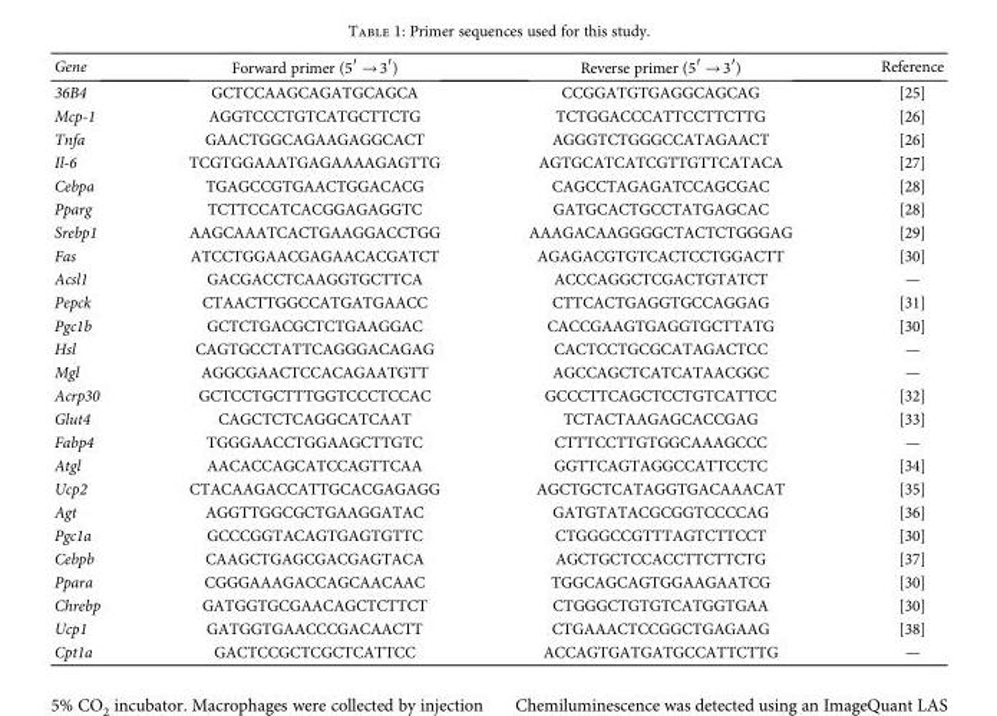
<table><thead><tr><td>Gene</td><td>Forward primer (5′ → 3′)</td><td>Reverse primer (5′ → 3′)</td><td>Reference</td></tr></thead><tbody><tr><td>36B4</td><td>GCTCCAAGCAGATGCAGCA</td><td>CCGGATGTGAGGCAGCAG</td><td>[25]</td></tr><tr><td>Mcp-1</td><td>AGGTCCCTGTCATGCTTCTG</td><td>TCTGGACCCATTCCTTCTTG</td><td>[26]</td></tr><tr><td>Tnfa</td><td>GAACTGGCAGAAGAGGCACT</td><td>AGGGTCTGGGCCATAGAACT</td><td>[26]</td></tr><tr><td>Il-6</td><td>TCGTGGAAATGAGAAAAGAGTTG</td><td>AGTGCATCATCGTTGTTCATACA</td><td>[27]</td></tr><tr><td>Cebpa</td><td>TGAGCCGTGAACTGGACACG</td><td>CAGCCTAGAGATCCAGCGAC</td><td>[28]</td></tr><tr><td>Pparg</td><td>TCTTCCATCACGGAGAGGTC</td><td>GATGCACTGCCTATGAGCAC</td><td>[28]</td></tr><tr><td>Srebp1</td><td>AAGCAAATCACTGAAGGACCTGG</td><td>AAAGACAAGGGGCTACTCTGGGAG</td><td>[29]</td></tr><tr><td>Fas</td><td>ATCCTGGAACGAGAACACGATCT</td><td>AGAGACGTGTCACTCCTGGACTT</td><td>[30]</td></tr><tr><td>Acsl1</td><td>GACGACCTCAAGGTGCTTCA</td><td>ACCCAGGCTCGACTGTATCT</td><td>—</td></tr><tr><td>Pepck</td><td>CTAACTTGGCCATGATGAACC</td><td>CTTCACTGAGGTGCCAGGAG</td><td>[31]</td></tr><tr><td>Pgc1b</td><td>GCTCTGACGCTCTGAAGGAC</td><td>CACCGAAGTGAGGTGCTTATG</td><td>[30]</td></tr><tr><td>Hsl</td><td>CAGTGCCTATTCAGGGACAGAG</td><td>CACTCCTGCGCATAGACTCC</td><td>—</td></tr><tr><td>Mgl</td><td>AGGCGAACTCCACAGAATGTT</td><td>AGCCAGCTCATCATAACGGC</td><td>—</td></tr><tr><td>Acrp30</td><td>GCTCCTGCTTTGGTCCCTCCAC</td><td>GCCCTTCAGCTCCTGTCATTCC</td><td>[32]</td></tr><tr><td>Glut4</td><td>CAGCTCTCAGGCATCAAT</td><td>TCTACTAAGAGCACCGAG</td><td>[33]</td></tr><tr><td>Fabp4</td><td>TGGGAACCTGGAAGCTTGTC</td><td>CTTTCCTTGTGGCAAAGCCC</td><td>—</td></tr><tr><td>Atgl</td><td>AACACCAGCATCCAGTTCAA</td><td>GGTTCAGTAGGCCATTCCTC</td><td>[34]</td></tr><tr><td>Ucp2</td><td>CTACAAGACCATTGCACGAGAGG</td><td>AGCTGCTCATAGGTGACAAACAT</td><td>[35]</td></tr><tr><td>Agt</td><td>AGGTTGGCGCTGAAGGATAC</td><td>GATGTATACGCGGTCCCCAG</td><td>[36]</td></tr><tr><td>Pgc1a</td><td>GCCCGGTACAGTGAGTGTTC</td><td>CTGGGCCGTTTAGTCTTCCT</td><td>[30]</td></tr><tr><td>Cebpb</td><td>CAAGCTGAGCGACGAGTACA</td><td>AGCTGCTCCACCTTCTTCTG</td><td>[37]</td></tr><tr><td>Ppara</td><td>CGGGAAAGACCAGCAACAAC</td><td>TGGCAGCAGTGGAAGAATCG</td><td>[30]</td></tr><tr><td>Chrebp</td><td>GATGGTGCGAACAGCTCTTCT</td><td>CTGGGCTGTGTCATGGTGAA</td><td>[30]</td></tr><tr><td>Ucp1</td><td>GATGGTGAACCCGACAACTT</td><td>CTGAAACTCCGGCTGAGAAG</td><td>[38]</td></tr><tr><td>Cpt1a</td><td>GACTCCGCTCGCTCATTCC</td><td>ACCAGTGATGATGCCATTCTTG</td><td>—</td></tr></tbody></table>